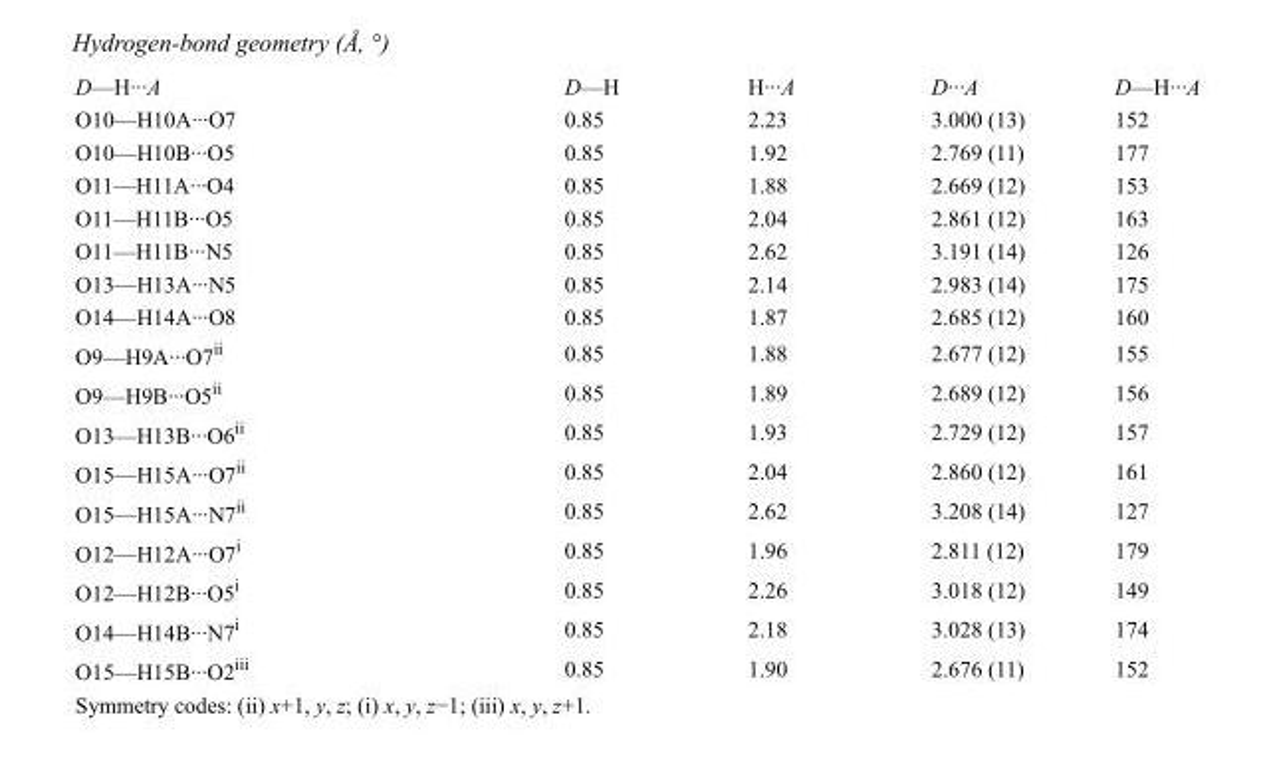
<table><tbody><tr><td>D—H···A</td><td>D—H</td><td>H···A</td><td>D···A</td><td>D—H···A</td></tr><tr><td>O10—H10A···O7</td><td>0.85</td><td>2.23</td><td>3.000 (13)</td><td>152</td></tr><tr><td>O10—H10B···O5</td><td>0.85</td><td>1.92</td><td>2.769 (11)</td><td>177</td></tr><tr><td>O11—H11A···O4</td><td>0.85</td><td>1.88</td><td>2.669 (12)</td><td>153</td></tr><tr><td>O11—H11B···O5</td><td>0.85</td><td>2.04</td><td>2.861 (12)</td><td>163</td></tr><tr><td>O11—H11B···N5</td><td>0.85</td><td>2.62</td><td>3.191 (14)</td><td>126</td></tr><tr><td>O13—H13A···N5</td><td>0.85</td><td>2.14</td><td>2.983 (14)</td><td>175</td></tr><tr><td>O14—H14A···O8</td><td>0.85</td><td>1.87</td><td>2.685 (12)</td><td>160</td></tr><tr><td>O9—H9A···O7<sup>ii</sup></td><td>0.85</td><td>1.88</td><td>2.677 (12)</td><td>155</td></tr><tr><td>O9—H9B···O5<sup>ii</sup></td><td>0.85</td><td>1.89</td><td>2.689 (12)</td><td>156</td></tr><tr><td>O13—H13B···O6<sup>ii</sup></td><td>0.85</td><td>1.93</td><td>2.729 (12)</td><td>157</td></tr><tr><td>O15—H15A···O7<sup>ii</sup></td><td>0.85</td><td>2.04</td><td>2.860 (12)</td><td>161</td></tr><tr><td>O15—H15A···N7<sup>ii</sup></td><td>0.85</td><td>2.62</td><td>3.208 (14)</td><td>127</td></tr><tr><td>O12—H12A···O7<sup>i</sup></td><td>0.85</td><td>1.96</td><td>2.811 (12)</td><td>179</td></tr><tr><td>O12—H12B···O5<sup>i</sup></td><td>0.85</td><td>2.26</td><td>3.018 (12)</td><td>149</td></tr><tr><td>O14—H14B···N7<sup>i</sup></td><td>0.85</td><td>2.18</td><td>3.028 (13)</td><td>174</td></tr><tr><td>O15—H15B···O2<sup>iii</sup></td><td>0.85</td><td>1.90</td><td>2.676 (11)</td><td>152</td></tr></tbody></table>